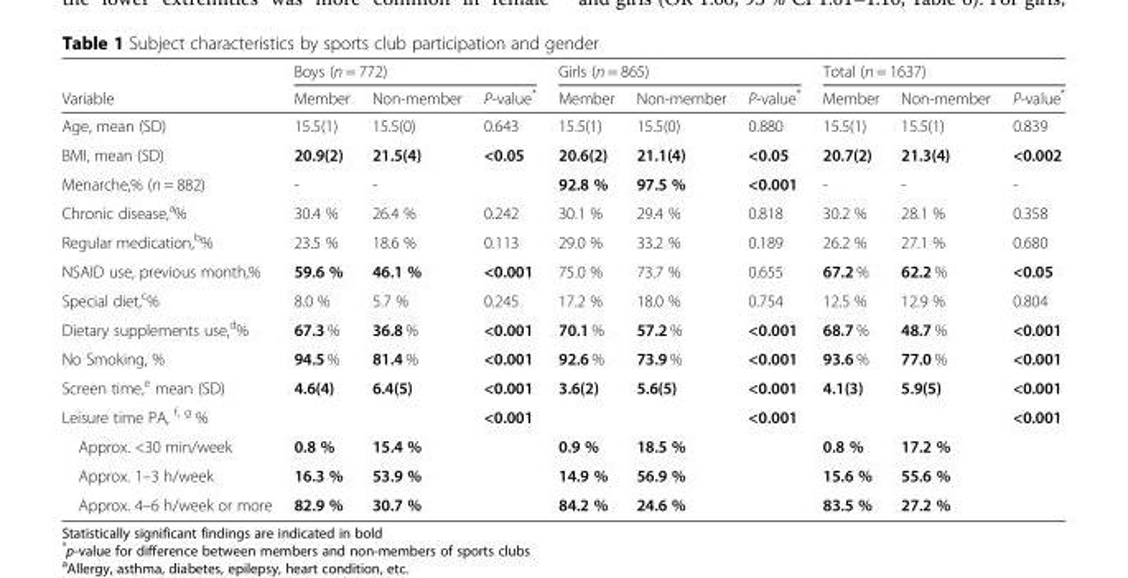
<table><thead><tr><td rowspan="2">Variable</td><td colspan="3">Boys (n = 772)</td><td colspan="3">Girls (n = 865)</td><td colspan="3">Total (n = 1637)</td></tr><tr><td>Member</td><td>Non-member</td><td>P-value*</td><td>Member</td><td>Non-member</td><td>P-value*</td><td>Member</td><td>Non-member</td><td>P-value*</td></tr></thead><tbody><tr><td>Age, mean (SD)</td><td>15.5(1)</td><td>15.5(0)</td><td>0.643</td><td>15.5(1)</td><td>15.5(0)</td><td>0.880</td><td>15.5(1)</td><td>15.5(1)</td><td>0.839</td></tr><tr><td>BMI, mean (SD)</td><td>20.9(2)</td><td>21.5(4)</td><td>&lt;0.05</td><td>20.6(2)</td><td>21.1(4)</td><td>&lt;0.05</td><td>20.7(2)</td><td>21.3(4)</td><td>&lt;0.002</td></tr><tr><td>Menarche,% (n = 882)</td><td>-</td><td>-</td><td></td><td>92.8 %</td><td>97.5 %</td><td>&lt;0.001</td><td>-</td><td>-</td><td>-</td></tr><tr><td>Chronic disease,<sup>a</sup>%</td><td>30.4 %</td><td>26.4 %</td><td>0.242</td><td>30.1 %</td><td>29.4 %</td><td>0.818</td><td>30.2 %</td><td>28.1 %</td><td>0.358</td></tr><tr><td>Regular medication,<sup>b</sup>%</td><td>23.5 %</td><td>18.6 %</td><td>0.113</td><td>29.0 %</td><td>33.2 %</td><td>0.189</td><td>26.2 %</td><td>27.1 %</td><td>0.680</td></tr><tr><td>NSAID use, previous month,%</td><td>59.6 %</td><td>46.1 %</td><td>&lt;0.001</td><td>75.0 %</td><td>73.7 %</td><td>0.655</td><td>67.2 %</td><td>62.2 %</td><td>&lt;0.05</td></tr><tr><td>Special diet,<sup>c</sup>%</td><td>8.0 %</td><td>5.7 %</td><td>0.245</td><td>17.2 %</td><td>18.0 %</td><td>0.754</td><td>12.5 %</td><td>12.9 %</td><td>0.804</td></tr><tr><td>Dietary supplements use,<sup>d</sup>%</td><td>67.3 %</td><td>36.8 %</td><td>&lt;0.001</td><td>70.1 %</td><td>57.2 %</td><td>&lt;0.001</td><td>68.7 %</td><td>48.7 %</td><td>&lt;0.001</td></tr><tr><td>No Smoking, %</td><td>94.5 %</td><td>81.4 %</td><td>&lt;0.001</td><td>92.6 %</td><td>73.9 %</td><td>&lt;0.001</td><td>93.6 %</td><td>77.0 %</td><td>&lt;0.001</td></tr><tr><td>Screen time,<sup>e</sup> mean (SD)</td><td>4.6(4)</td><td>6.4(5)</td><td>&lt;0.001</td><td>3.6(2)</td><td>5.6(5)</td><td>&lt;0.001</td><td>4.1(3)</td><td>5.9(5)</td><td>&lt;0.001</td></tr><tr><td>Leisure time PA, <sup>f, g</sup> %</td><td></td><td></td><td>&lt;0.001</td><td></td><td></td><td>&lt;0.001</td><td></td><td></td><td>&lt;0.001</td></tr><tr><td>Approx. &lt;30 min/week</td><td>0.8 %</td><td>15.4 %</td><td></td><td>0.9 %</td><td>18.5 %</td><td></td><td>0.8 %</td><td>17.2 %</td><td></td></tr><tr><td>Approx. 1–3 h/week</td><td>16.3 %</td><td>53.9 %</td><td></td><td>14.9 %</td><td>56.9 %</td><td></td><td>15.6 %</td><td>55.6 %</td><td></td></tr><tr><td>Approx. 4–6 h/week or more</td><td>82.9 %</td><td>30.7 %</td><td></td><td>84.2 %</td><td>24.6 %</td><td></td><td>83.5 %</td><td>27.2 %</td><td></td></tr></tbody></table>